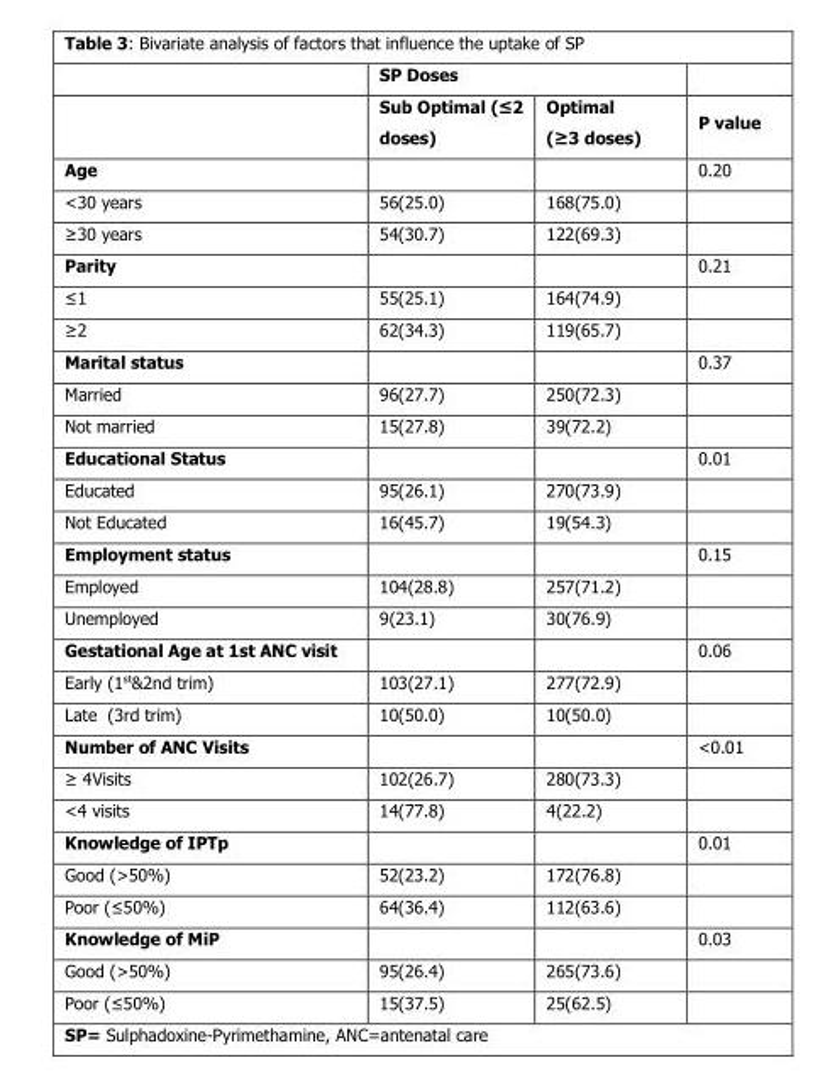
<table><thead><tr><td rowspan="2"></td><td colspan="2">SP Doses</td><td rowspan="2">P value</td></tr><tr><td>Sub Optimal (≤2 doses)</td><td>Optimal (≥3 doses)</td></tr></thead><tbody><tr><td>Age</td><td></td><td></td><td>0.20</td></tr><tr><td>&lt;30 years</td><td>56(25.0)</td><td>168(75.0)</td><td></td></tr><tr><td>≥30 years</td><td>54(30.7)</td><td>122(69.3)</td><td></td></tr><tr><td>Parity</td><td></td><td></td><td>0.21</td></tr><tr><td>≤1</td><td>55(25.1)</td><td>164(74.9)</td><td></td></tr><tr><td>≥2</td><td>62(34.3)</td><td>119(65.7)</td><td></td></tr><tr><td>Marital status</td><td></td><td></td><td>0.37</td></tr><tr><td>Married</td><td>96(27.7)</td><td>250(72.3)</td><td></td></tr><tr><td>Not married</td><td>15(27.8)</td><td>39(72.2)</td><td></td></tr><tr><td>Educational Status</td><td></td><td></td><td>0.01</td></tr><tr><td>Educated</td><td>95(26.1)</td><td>270(73.9)</td><td></td></tr><tr><td>Not Educated</td><td>16(45.7)</td><td>19(54.3)</td><td></td></tr><tr><td>Employment status</td><td></td><td></td><td>0.15</td></tr><tr><td>Employed</td><td>104(28.8)</td><td>257(71.2)</td><td></td></tr><tr><td>Unemployed</td><td>9(23.1)</td><td>30(76.9)</td><td></td></tr><tr><td>Gestational Age at 1st ANC visit</td><td></td><td></td><td>0.06</td></tr><tr><td>Early (1<sup>st</sup>&amp;2nd trim)</td><td>103(27.1)</td><td>277(72.9)</td><td></td></tr><tr><td>Late (3rd trim)</td><td>10(50.0)</td><td>10(50.0)</td><td></td></tr><tr><td>Number of ANC Visits</td><td></td><td></td><td>&lt;0.01</td></tr><tr><td>≥ 4Visits</td><td>102(26.7)</td><td>280(73.3)</td><td></td></tr><tr><td>&lt;4 visits</td><td>14(77.8)</td><td>4(22.2)</td><td></td></tr><tr><td>Knowledge of IPTp</td><td></td><td></td><td>0.01</td></tr><tr><td>Good (&gt;50%)</td><td>52(23.2)</td><td>172(76.8)</td><td></td></tr><tr><td>Poor (≤50%)</td><td>64(36.4)</td><td>112(63.6)</td><td></td></tr><tr><td>Knowledge of MiP</td><td></td><td></td><td>0.03</td></tr><tr><td>Good (&gt;50%)</td><td>95(26.4)</td><td>265(73.6)</td><td></td></tr><tr><td>Poor (≤50%)</td><td>15(37.5)</td><td>25(62.5)</td><td></td></tr></tbody></table>